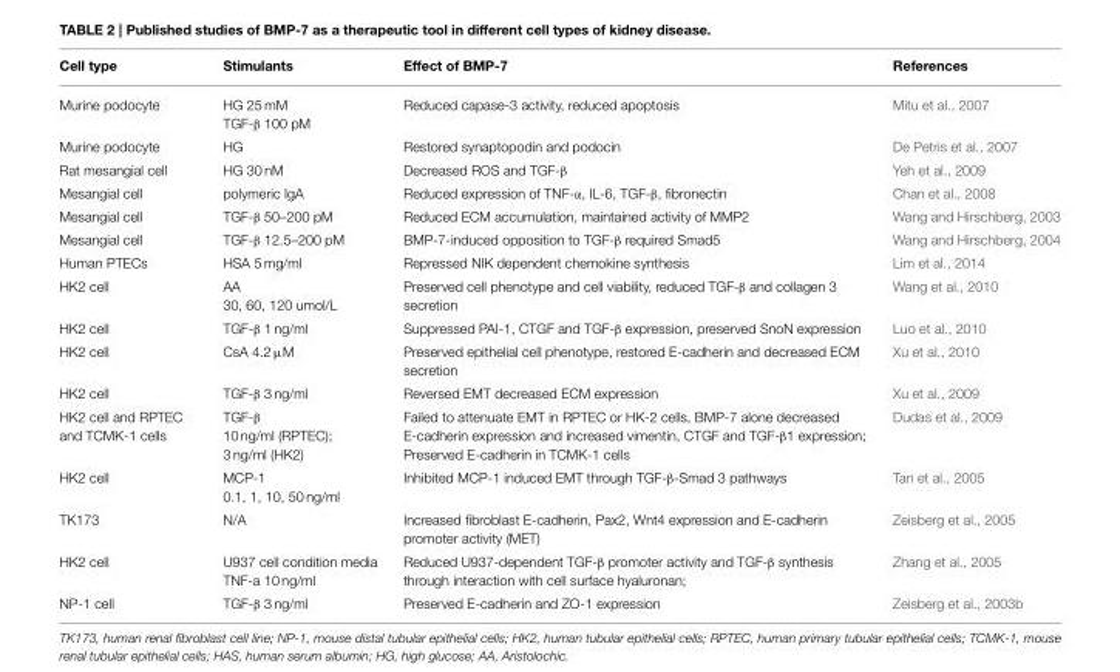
<table><thead><tr><td>Cell type</td><td>Stimulants</td><td>Effect of BMP-7</td><td>References</td></tr></thead><tbody><tr><td>Murine podocyte</td><td>HG 25 mM TGF-β 100 pM</td><td>Reduced capase-3 activity, reduced apoptosis</td><td>Mitu et al., 2007</td></tr><tr><td>Murine podocyte</td><td>HG</td><td>Restored synaptopodin and podocin</td><td>De Petris et al., 2007</td></tr><tr><td>Rat mesangial cell</td><td>HG 30 nM</td><td>Decreased ROS and TGF-β</td><td>Yeh et al., 2009</td></tr><tr><td>Mesangial cell</td><td>polymeric IgA</td><td>Reduced expression of TNF-α, IL-6, TGF-β, fibronectin</td><td>Chan et al., 2008</td></tr><tr><td>Mesangial cell</td><td>TGF-β 50–200 pM</td><td>Reduced ECM accumulation, maintained activity of MMP2</td><td>Wang and Hirschberg, 2003</td></tr><tr><td>Mesangial cell</td><td>TGF-β 12.5–200 pM</td><td>BMP-7-induced opposition to TGF-β required Smad5</td><td>Wang and Hirschberg, 2004</td></tr><tr><td>Human PTECs</td><td>HSA 5 mg/ml</td><td>Repressed NIK dependent chemokine synthesis</td><td>Lim et al., 2014</td></tr><tr><td>HK2 cell</td><td>AA 30, 60, 120 umol/L</td><td>Preserved cell phenotype and cell viability, reduced TGF-β and collagen 3 secretion</td><td>Wang et al., 2010</td></tr><tr><td>HK2 cell</td><td>TGF-β 1 ng/ml</td><td>Suppressed PAI-1, CTGF and TGF-β expression, preserved SnoN expression</td><td>Luo et al., 2010</td></tr><tr><td>HK2 cell</td><td>CsA 4.2 µM</td><td>Preserved epithelial cell phenotype, restored E-cadherin and decreased ECM secretion</td><td>Xu et al., 2010</td></tr><tr><td>HK2 cell</td><td>TGF-β 3 ng/ml</td><td>Reversed EMT decreased ECM expression</td><td>Xu et al., 2009</td></tr><tr><td>HK2 cell and RPTEC and TCMK-1 cells</td><td>TGF-β 10 ng/ml (RPTEC); 3 ng/ml (HK2)</td><td>Failed to attenuate EMT in RPTEC or HK-2 cells, BMP-7 alone decreased E-cadherin expression and increased vimentin, CTGF and TGF-β1 expression; Preserved E-cadherin in TCMK-1 cells</td><td>Dudas et al., 2009</td></tr><tr><td>HK2 cell</td><td>MCP-1 0.1, 1, 10, 50 ng/ml</td><td>Inhibited MCP-1 induced EMT through TGF-β-Smad 3 pathways</td><td>Tan et al., 2005</td></tr><tr><td>TK173</td><td>N/A</td><td>Increased fibroblast E-cadherin, Pax2, Wnt4 expression and E-cadherin promoter activity (MET)</td><td>Zeisberg et al., 2005</td></tr><tr><td>HK2 cell</td><td>U937 cell condition media TNF-a 10 ng/ml</td><td>Reduced U937-dependent TGF-β promoter activity and TGF-β synthesis through interaction with cell surface hyaluronan;</td><td>Zhang et al., 2005</td></tr><tr><td>NP-1 cell</td><td>TGF-β 3 ng/ml</td><td>Preserved E-cadherin and ZO-1 expression</td><td>Zeisberg et al., 2003b</td></tr></tbody></table>